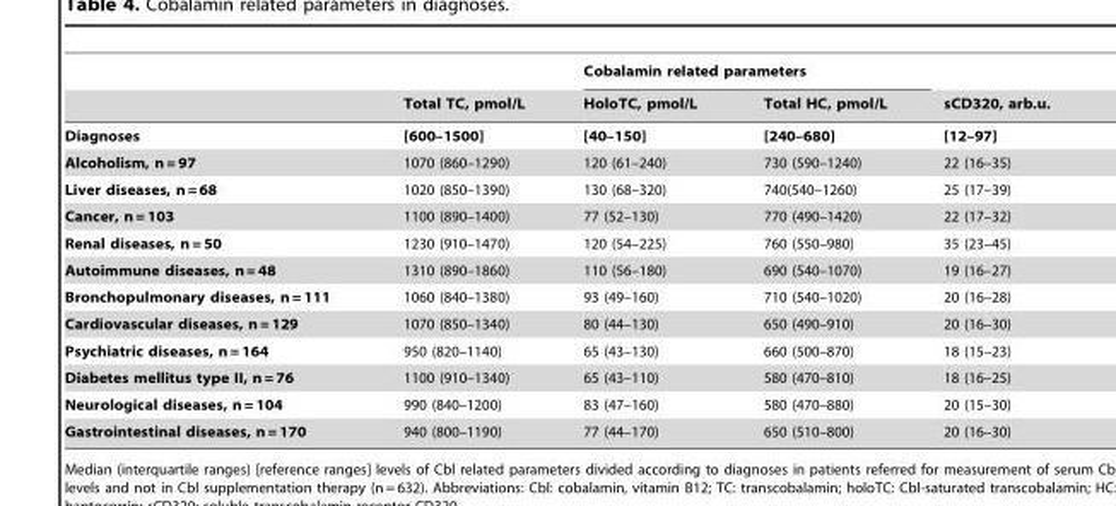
<table><thead><tr><td rowspan="2"></td><td rowspan="2">Total TC, pmol/L</td><td colspan="2">Cobalamin related parameters</td><td rowspan="2">sCD320, arb.u.</td></tr><tr><td>HoloTC, pmol/L</td><td>Total HC, pmol/L</td></tr></thead><tbody><tr><td>Diagnoses</td><td>[600–1500]</td><td>[40–150]</td><td>[240–680]</td><td>[12–97]</td></tr><tr><td>Alcoholism, n = 97</td><td>1070 (860–1290)</td><td>120 (61–240)</td><td>730 (590–1240)</td><td>22 (16–35)</td></tr><tr><td>Liver diseases, n = 68</td><td>1020 (850–1390)</td><td>130 (68–320)</td><td>740(540–1260)</td><td>25 (17–39)</td></tr><tr><td>Cancer, n = 103</td><td>1100 (890–1400)</td><td>77 (52–130)</td><td>770 (490–1420)</td><td>22 (17–32)</td></tr><tr><td>Renal diseases, n = 50</td><td>1230 (910–1470)</td><td>120 (54–225)</td><td>760 (550–980)</td><td>35 (23–45)</td></tr><tr><td>Autoimmune diseases, n = 48</td><td>1310 (890–1860)</td><td>110 (56–180)</td><td>690 (540–1070)</td><td>19 (16–27)</td></tr><tr><td>Bronchopulmonary diseases, n = 111</td><td>1060 (840–1380)</td><td>93 (49–160)</td><td>710 (540–1020)</td><td>20 (16–28)</td></tr><tr><td>Cardiovascular diseases, n = 129</td><td>1070 (850–1340)</td><td>80 (44–130)</td><td>650 (490–910)</td><td>20 (16–30)</td></tr><tr><td>Psychiatric diseases, n = 164</td><td>950 (820–1140)</td><td>65 (43–130)</td><td>660 (500–870)</td><td>18 (15–23)</td></tr><tr><td>Diabetes mellitus type II, n = 76</td><td>1100 (910–1340)</td><td>65 (43–110)</td><td>580 (470–810)</td><td>18 (16–25)</td></tr><tr><td>Neurological diseases, n = 104</td><td>990 (840–1200)</td><td>83 (47–160)</td><td>580 (470–880)</td><td>20 (15–30)</td></tr><tr><td>Gastrointestinal diseases, n = 170</td><td>940 (800–1190)</td><td>77 (44–170)</td><td>650 (510–800)</td><td>20 (16–30)</td></tr></tbody></table>